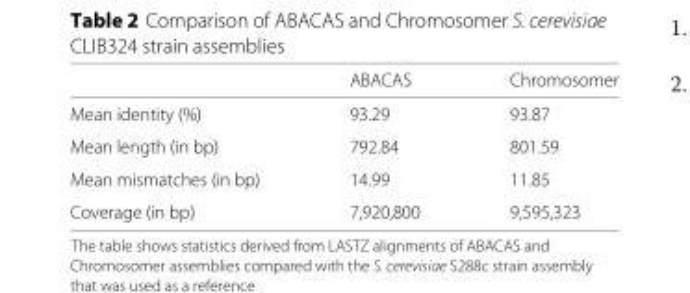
<table><thead><tr><td></td><td>ABACAS</td><td>Chromosomer</td></tr></thead><tbody><tr><td>Mean identity (%)</td><td>93.29</td><td>93.87</td></tr><tr><td>Mean length (in bp)</td><td>792.84</td><td>801.59</td></tr><tr><td>Mean mismatches (in bp)</td><td>14.99</td><td>11.85</td></tr><tr><td>Coverage (in bp)</td><td>7,920,800</td><td>9,595,323</td></tr></tbody></table>